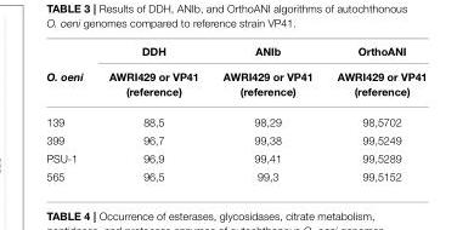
<table><thead><tr><td rowspan="2">O. oeni</td><td rowspan="2">DDH AWRI429 or VP41 (reference)</td><td rowspan="2">ANIb AWRI429 or VP41 (reference)</td><td rowspan="2">OrthoANI AWRI429 or VP41 (reference)</td></tr><tr></tr></thead><tbody><tr><td>139</td><td>88,5</td><td>98,29</td><td>98,5702</td></tr><tr><td>399</td><td>96,7</td><td>99,38</td><td>99,5249</td></tr><tr><td>PSU-1</td><td>96,9</td><td>99,41</td><td>99,5289</td></tr><tr><td>565</td><td>96,5</td><td>99,3</td><td>99,5152</td></tr></tbody></table>